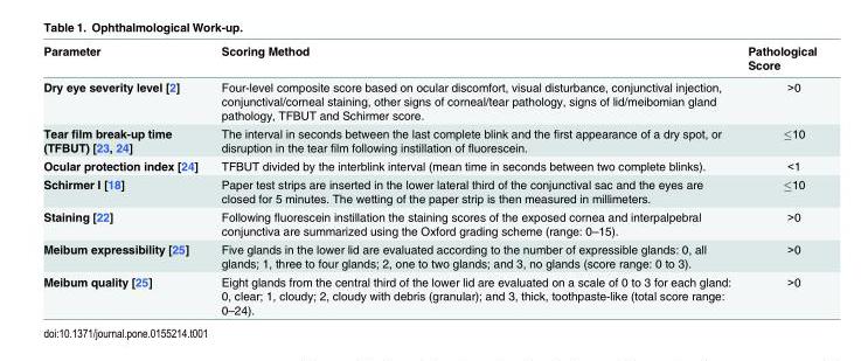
<table><thead><tr><td>Parameter</td><td>Scoring Method</td><td>Pathological Score</td></tr></thead><tbody><tr><td>Dry eye severity level [2]</td><td>Four-level composite score based on ocular discomfort, visual disturbance, conjunctival injection, conjunctival/corneal staining, other signs of corneal/tear pathology, signs of lid/meibomian gland pathology, TFBUT and Schirmer score.</td><td>&gt;0</td></tr><tr><td>Tear film break-up time (TFBUT) [23, 24]</td><td>The interval in seconds between the last complete blink and the first appearance of a dry spot, or disruption in the tear film following instillation of fluorescein.</td><td>≤10</td></tr><tr><td>Ocular protection index [24]</td><td>TFBUT divided by the interblink interval (mean time in seconds between two complete blinks).</td><td>&lt;1</td></tr><tr><td>Schirmer I [18]</td><td>Paper test strips are inserted in the lower lateral third of the conjunctival sac and the eyes are closed for 5 minutes. The wetting of the paper strip is then measured in millimeters.</td><td>≤10</td></tr><tr><td>Staining [22]</td><td>Following fluorescein instillation the staining scores of the exposed cornea and interpalpebral conjunctiva are summarized using the Oxford grading scheme (range: 0–15).</td><td>&gt;0</td></tr><tr><td>Meibum expressibility [25]</td><td>Five glands in the lower lid are evaluated according to the number of expressible glands: 0, all glands; 1, three to four glands; 2, one to two glands; and 3, no glands (score range: 0 to 3).</td><td>&gt;0</td></tr><tr><td>Meibum quality [25]</td><td>Eight glands from the central third of the lower lid are evaluated on a scale of 0 to 3 for each gland: 0, clear; 1, cloudy; 2, cloudy with debris (granular); and 3, thick, toothpaste-like (total score range: 0–24).</td><td>&gt;0</td></tr></tbody></table>